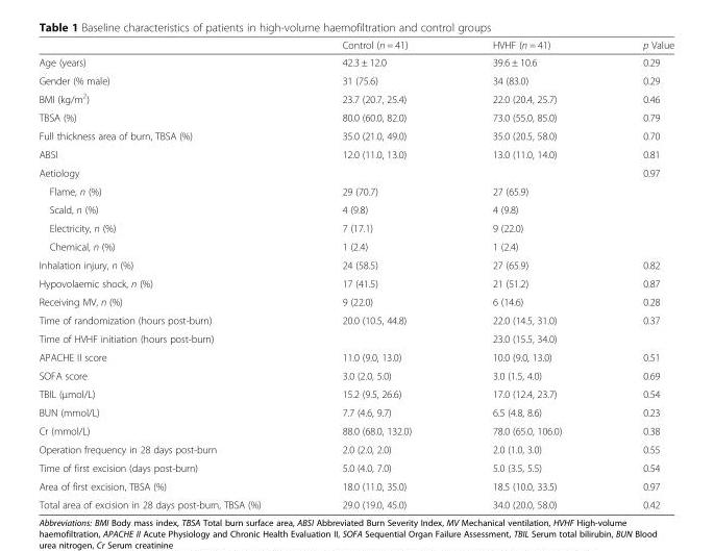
<table><thead><tr><td></td><td>Control (n = 41)</td><td>HVHF (n = 41)</td><td>p Value</td></tr></thead><tbody><tr><td>Age (years)</td><td>42.3 ± 12.0</td><td>39.6 ± 10.6</td><td>0.29</td></tr><tr><td>Gender (% male)</td><td>31 (75.6)</td><td>34 (83.0)</td><td>0.29</td></tr><tr><td>BMI (kg/m<sup>2</sup>)</td><td>23.7 (20.7, 25.4)</td><td>22.0 (20.4, 25.7)</td><td>0.46</td></tr><tr><td>TBSA (%)</td><td>80.0 (60.0, 82.0)</td><td>73.0 (55.0, 85.0)</td><td>0.79</td></tr><tr><td>Full thickness area of burn, TBSA (%)</td><td>35.0 (21.0, 49.0)</td><td>35.0 (20.5, 58.0)</td><td>0.70</td></tr><tr><td>ABSI</td><td>12.0 (11.0, 13.0)</td><td>13.0 (11.0, 14.0)</td><td>0.81</td></tr><tr><td>Aetiology</td><td></td><td></td><td>0.97</td></tr><tr><td>Flame, n (%)</td><td>29 (70.7)</td><td>27 (65.9)</td><td rowspan="4"></td></tr><tr><td>Scald, n (%)</td><td>4 (9.8)</td><td>4 (9.8)</td></tr><tr><td>Electricity, n (%)</td><td>7 (17.1)</td><td>9 (22.0)</td></tr><tr><td>Chemical, n (%)</td><td>1 (2.4)</td><td>1 (2.4)</td></tr><tr><td>Inhalation injury, n (%)</td><td>24 (58.5)</td><td>27 (65.9)</td><td>0.82</td></tr><tr><td>Hypovolaemic shock, n (%)</td><td>17 (41.5)</td><td>21 (51.2)</td><td>0.87</td></tr><tr><td>Receiving MV, n (%)</td><td>9 (22.0)</td><td>6 (14.6)</td><td>0.28</td></tr><tr><td>Time of randomization (hours post-burn)</td><td>20.0 (10.5, 44.8)</td><td>22.0 (14.5, 31.0)</td><td>0.37</td></tr><tr><td>Time of HVHF initiation (hours post-burn)</td><td></td><td>23.0 (15.5, 34.0)</td><td></td></tr><tr><td>APACHE II score</td><td>11.0 (9.0, 13.0)</td><td>10.0 (9.0, 13.0)</td><td>0.51</td></tr><tr><td>SOFA score</td><td>3.0 (2.0, 5.0)</td><td>3.0 (1.5, 4.0)</td><td>0.69</td></tr><tr><td>TBIL (μmol/L)</td><td>15.2 (9.5, 26.6)</td><td>17.0 (12.4, 23.7)</td><td>0.54</td></tr><tr><td>BUN (mmol/L)</td><td>7.7 (4.6, 9.7)</td><td>6.5 (4.8, 8.6)</td><td>0.23</td></tr><tr><td>Cr (mmol/L)</td><td>88.0 (68.0, 132.0)</td><td>78.0 (65.0, 106.0)</td><td>0.38</td></tr><tr><td>Operation frequency in 28 days post-burn</td><td>2.0 (2.0, 2.0)</td><td>2.0 (1.0, 3.0)</td><td>0.55</td></tr><tr><td>Time of first excision (days post-burn)</td><td>5.0 (4.0, 7.0)</td><td>5.0 (3.5, 5.5)</td><td>0.54</td></tr><tr><td>Area of first excision, TBSA (%)</td><td>18.0 (11.0, 35.0)</td><td>18.5 (10.0, 33.5)</td><td>0.97</td></tr><tr><td>Total area of excision in 28 days post-burn, TBSA (%)</td><td>29.0 (19.0, 45.0)</td><td>34.0 (20.0, 58.0)</td><td>0.42</td></tr></tbody></table>